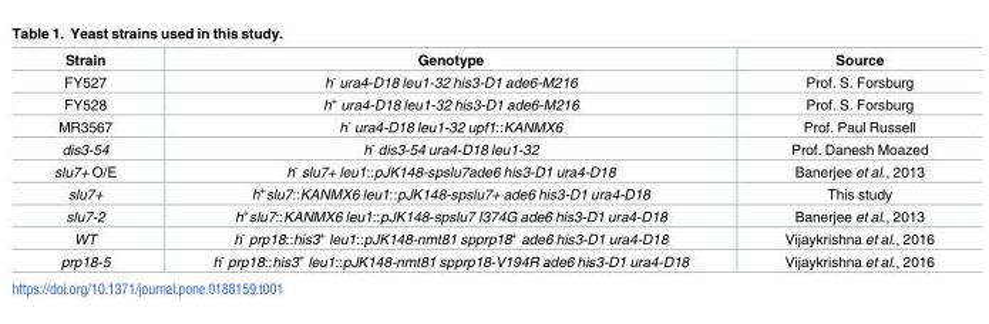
<table><thead><tr><td>Strain</td><td>Genotype</td><td>Source</td></tr></thead><tbody><tr><td>FY527</td><td>h<sup>-</sup> ura4-D18 leu1-32 his3-D1 ade6-M216</td><td>Prof. S. Forsburg</td></tr><tr><td>FY528</td><td>h<sup>+</sup> ura4-D18 leu1-32 his3-D1 ade6-M216</td><td>Prof. S. Forsburg</td></tr><tr><td>MR3567</td><td>h<sup>-</sup> ura4-D18 leu1-32 upf1::KANMX6</td><td>Prof. Paul Russell</td></tr><tr><td>dis3-54</td><td>h<sup>-</sup> dis3-54 ura4-D18 leu1-32</td><td>Prof. Danesh Moazed</td></tr><tr><td>slu7+ O/E</td><td>h<sup>-</sup> slu7+ leu1::pJK148-spslu7ade6 his3-D1 ura4-D18</td><td>Banerjee et al., 2013</td></tr><tr><td>slu7+</td><td>h<sup>+</sup>slu7::KANMX6 leu1::pJK148-spslu7+ ade6 his3-D1 ura4-D18</td><td>This study</td></tr><tr><td>slu7-2</td><td>h<sup>+</sup>slu7::KANMX6 leu1::pJK148-spslu7 I374G ade6 his3-D1 ura4-D18</td><td>Banerjee et al., 2013</td></tr><tr><td>WT</td><td>h<sup>-</sup> prp18::his3<sup>+</sup> leu1::pJK148-nmt81 spprp18<sup>+</sup> ade6 his3-D1 ura4-D18</td><td>Vijaykrishna et al., 2016</td></tr><tr><td>prp18-5</td><td>h<sup>-</sup> prp18::his3<sup>+</sup> leu1::pJK148-nmt81 spprp18-V194R ade6 his3-D1 ura4-D18</td><td>Vijaykrishna et al., 2016</td></tr></tbody></table>